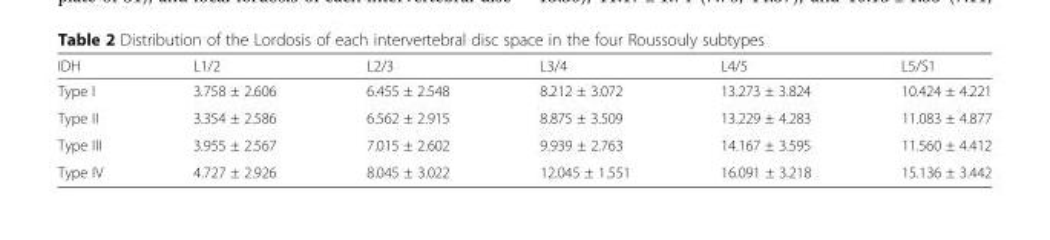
<table><thead><tr><td>IDH</td><td>L1/2</td><td>L2/3</td><td>L3/4</td><td>L4/5</td><td>L5/S1</td></tr></thead><tbody><tr><td>Type I</td><td>3.758 ± 2.606</td><td>6.455 ± 2.548</td><td>8.212 ± 3.072</td><td>13.273 ± 3.824</td><td>10.424 ± 4.221</td></tr><tr><td>Type II</td><td>3.354 ± 2.586</td><td>6.562 ± 2.915</td><td>8.875 ± 3.509</td><td>13.229 ± 4.283</td><td>11.083 ± 4.877</td></tr><tr><td>Type III</td><td>3.955 ± 2.567</td><td>7.015 ± 2.602</td><td>9.939 ± 2.763</td><td>14.167 ± 3.595</td><td>11.560 ± 4.412</td></tr><tr><td>Type IV</td><td>4.727 ± 2.926</td><td>8.045 ± 3.022</td><td>12.045 ± 1.551</td><td>16.091 ± 3.218</td><td>15.136 ± 3.442</td></tr></tbody></table>